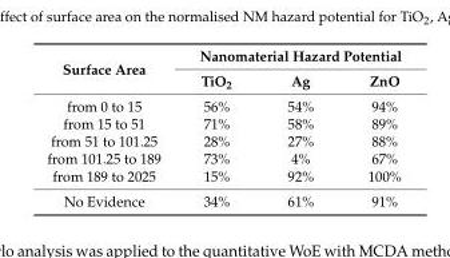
<table><thead><tr><td rowspan="2">Surface Area</td><td colspan="3">Nanomaterial Hazard Potential</td></tr><tr><td>TiO<sub>2</sub></td><td>Ag</td><td>ZnO</td></tr></thead><tbody><tr><td>from 0 to 15</td><td>56%</td><td>54%</td><td>94%</td></tr><tr><td>from 15 to 51</td><td>71%</td><td>58%</td><td>89%</td></tr><tr><td>from 51 to 101.25</td><td>28%</td><td>27%</td><td>88%</td></tr><tr><td>from 101.25 to 189</td><td>73%</td><td>4%</td><td>67%</td></tr><tr><td>from 189 to 2025</td><td>15%</td><td>92%</td><td>100%</td></tr><tr><td>No Evidence</td><td>34%</td><td>61%</td><td>91%</td></tr></tbody></table>